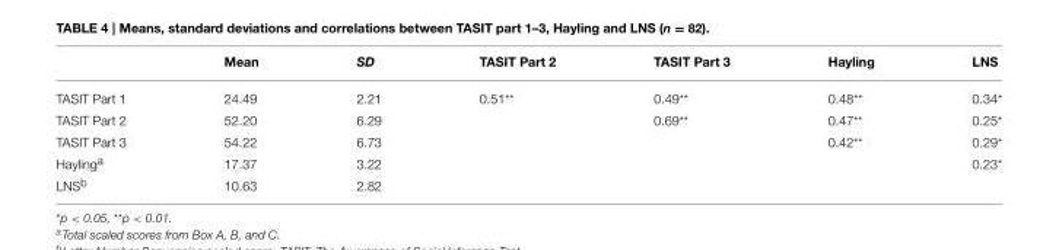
<table><thead><tr><td></td><td>Mean</td><td>SD</td><td>TASIT Part 2</td><td>TASIT Part 3</td><td>Hayling</td><td>LNS</td></tr></thead><tbody><tr><td>TASIT Part 1</td><td>24.49</td><td>2.21</td><td>0.51**</td><td>0.49**</td><td>0.48**</td><td>0.34*</td></tr><tr><td>TASIT Part 2</td><td>52.20</td><td>6.29</td><td></td><td>0.69**</td><td>0.47**</td><td>0.25*</td></tr><tr><td>TASIT Part 3</td><td>54.22</td><td>6.73</td><td></td><td></td><td>0.42**</td><td>0.29*</td></tr><tr><td>Hayling<sup>a</sup></td><td>17.37</td><td>3.22</td><td></td><td></td><td></td><td>0.23*</td></tr><tr><td>LNS<sup>b</sup></td><td>10.63</td><td>2.82</td><td></td><td></td><td></td><td></td></tr></tbody></table>